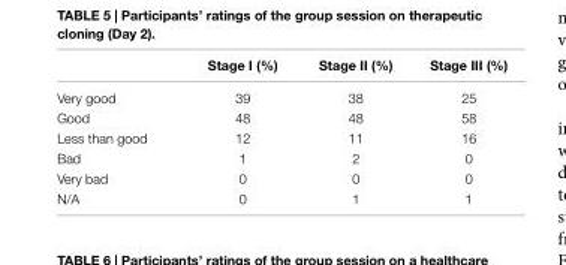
<table><thead><tr><td></td><td>stage I (%)</td><td>stage II (%)</td><td>stage III (%)</td></tr></thead><tbody><tr><td>Very good</td><td>39</td><td>38</td><td>25</td></tr><tr><td>Good</td><td>48</td><td>48</td><td>58</td></tr><tr><td>Less than good</td><td>12</td><td>11</td><td>16</td></tr><tr><td>Bad</td><td>1</td><td>2</td><td>0</td></tr><tr><td>Very bad</td><td>0</td><td>0</td><td>0</td></tr><tr><td>N/A</td><td>0</td><td>1</td><td>1</td></tr></tbody></table>